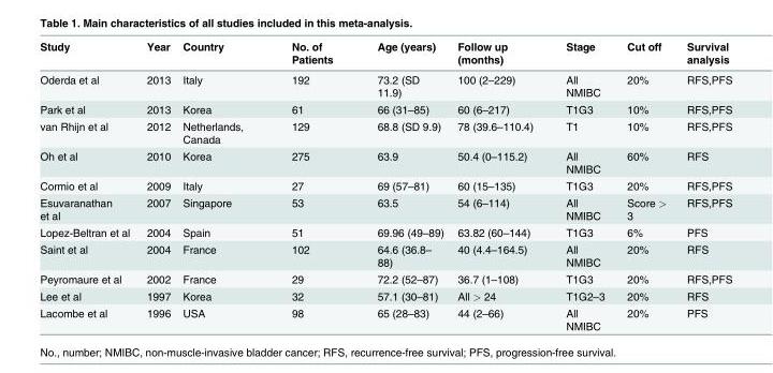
<table><thead><tr><td>Study</td><td>Year</td><td>Country</td><td>No. of Patients</td><td>Age (years)</td><td>Follow up (months)</td><td>Stage</td><td>Cut off</td><td>Survival analysis</td></tr></thead><tbody><tr><td>Oderda et al</td><td>2013</td><td>Italy</td><td>192</td><td>73.2 (SD 11.9)</td><td>100 (2–229)</td><td>All NMIBC</td><td>20%</td><td>RFS,PFS</td></tr><tr><td>Park et al</td><td>2013</td><td>Korea</td><td>61</td><td>66 (31–85)</td><td>60 (6–217)</td><td>T1G3</td><td>10%</td><td>RFS,PFS</td></tr><tr><td>van Rhijn et al</td><td>2012</td><td>Netherlands, Canada</td><td>129</td><td>68.8 (SD 9.9)</td><td>78 (39.6–110.4)</td><td>T1</td><td>10%</td><td>RFS,PFS</td></tr><tr><td>Oh et al</td><td>2010</td><td>Korea</td><td>275</td><td>63.9</td><td>50.4 (0–115.2)</td><td>All NMIBC</td><td>60%</td><td>RFS</td></tr><tr><td>Cormio et al</td><td>2009</td><td>Italy</td><td>27</td><td>69 (57–81)</td><td>60 (15–135)</td><td>T1G3</td><td>20%</td><td>RFS,PFS</td></tr><tr><td>Esuvaranathan et al</td><td>2007</td><td>Singapore</td><td>53</td><td>63.5</td><td>54 (6–114)</td><td>All NMIBC</td><td>Score &gt; 3</td><td>RFS,PFS</td></tr><tr><td>Lopez-Beltran et al</td><td>2004</td><td>Spain</td><td>51</td><td>69.96 (49–89)</td><td>63.82 (60–144)</td><td>T1G3</td><td>6%</td><td>PFS</td></tr><tr><td>Saint et al</td><td>2004</td><td>France</td><td>102</td><td>64.6 (36.8– 88)</td><td>40 (4.4–164.5)</td><td>All NMIBC</td><td>20%</td><td>RFS</td></tr><tr><td>Peyromaure et al</td><td>2002</td><td>France</td><td>29</td><td>72.2 (52–87)</td><td>36.7 (1–108)</td><td>T1G3</td><td>20%</td><td>RFS,PFS</td></tr><tr><td>Lee et al</td><td>1997</td><td>Korea</td><td>32</td><td>57.1 (30–81)</td><td>All &gt; 24</td><td>T1G2–3</td><td>20%</td><td>RFS</td></tr><tr><td>Lacombe et al</td><td>1996</td><td>USA</td><td>98</td><td>65 (28–83)</td><td>44 (2–66)</td><td>All NMIBC</td><td>20%</td><td>PFS</td></tr></tbody></table>